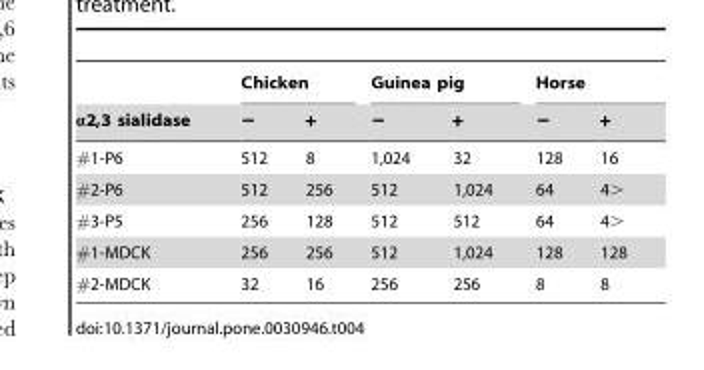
<table><thead><tr><td rowspan="2">α2,3 sialidase</td><td colspan="2">Chicken</td><td colspan="2">Guinea pig</td><td colspan="2">Horse</td></tr><tr><td>−</td><td>+</td><td>−</td><td>+</td><td>−</td><td>+</td></tr></thead><tbody><tr><td>#1-P6</td><td>512</td><td>8</td><td>1,024</td><td>32</td><td>128</td><td>16</td></tr><tr><td>#2-P6</td><td>512</td><td>256</td><td>512</td><td>1,024</td><td>64</td><td>4&gt;</td></tr><tr><td>#3-P5</td><td>256</td><td>128</td><td>512</td><td>512</td><td>64</td><td>4&gt;</td></tr><tr><td>#1-MDCK</td><td>256</td><td>256</td><td>512</td><td>1,024</td><td>128</td><td>128</td></tr><tr><td>#2-MDCK</td><td>32</td><td>16</td><td>256</td><td>256</td><td>8</td><td>8</td></tr></tbody></table>